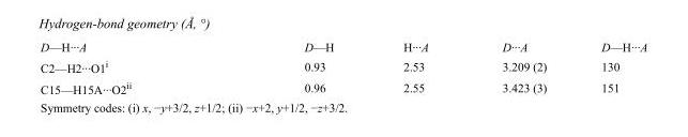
<table><tbody><tr><td>D—H···A</td><td>D—H</td><td>H···A</td><td>D···A</td><td>D—H···A</td></tr><tr><td>C2—H2···O1<sup>i</sup></td><td>0.93</td><td>2.53</td><td>3.209 (2)</td><td>130</td></tr><tr><td>C15—H15A···O2<sup>ii</sup></td><td>0.96</td><td>2.55</td><td>3.423 (3)</td><td>151</td></tr></tbody></table>